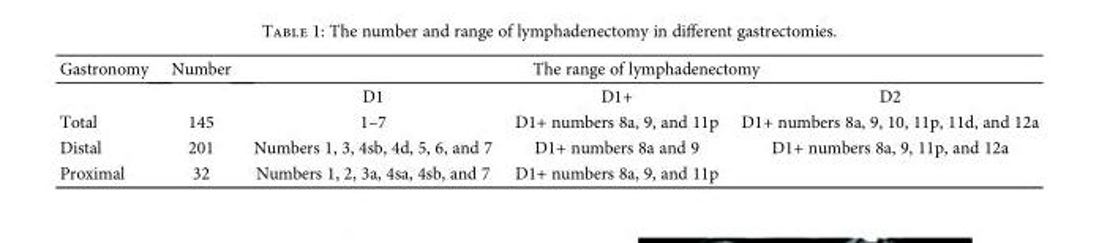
<table><thead><tr><td rowspan="2">Gastronomy</td><td rowspan="2">Number</td><td colspan="3">The range of lymphadenectomy</td></tr><tr><td>D1</td><td>D1+</td><td>D2</td></tr></thead><tbody><tr><td>Total</td><td>145</td><td>1–7</td><td>D1+ numbers 8a, 9, and 11p</td><td>D1+ numbers 8a, 9, 10, 11p, 11d, and 12a</td></tr><tr><td>Distal</td><td>201</td><td>Numbers 1, 3, 4sb, 4d, 5, 6, and 7</td><td>D1+ numbers 8a and 9</td><td>D1+ numbers 8a, 9, 11p, and 12a</td></tr><tr><td>Proximal</td><td>32</td><td>Numbers 1, 2, 3a, 4sa, 4sb, and 7</td><td>D1+ numbers 8a, 9, and 11p</td><td></td></tr></tbody></table>